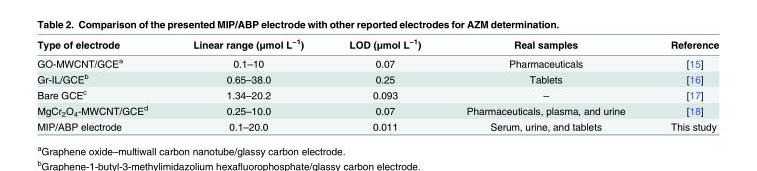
<table><thead><tr><td>Type of electrode</td><td>Linear range (μmol L<sup>−1</sup>)</td><td>LOD (μmol L<sup>−1</sup>)</td><td>Real samples</td><td>Reference</td></tr></thead><tbody><tr><td>GO-MWCNT/GCE<sup>a</sup></td><td>0.1–10</td><td>0.07</td><td>Pharmaceuticals</td><td>[15]</td></tr><tr><td>Gr-IL/GCE<sup>b</sup></td><td>0.65–38.0</td><td>0.25</td><td>Tablets</td><td>[16]</td></tr><tr><td>Bare GCE<sup>c</sup></td><td>1.34–20.2</td><td>0.093</td><td>–</td><td>[17]</td></tr><tr><td>MgCr<sub>2</sub>O<sub>4</sub>-MWCNT/GCE<sup>d</sup></td><td>0.25–10.0</td><td>0.07</td><td>Pharmaceuticals, plasma, and urine</td><td>[18]</td></tr><tr><td>MIP/ABP electrode</td><td>0.1–20.0</td><td>0.011</td><td>Serum, urine, and tablets</td><td>This study</td></tr></tbody></table>